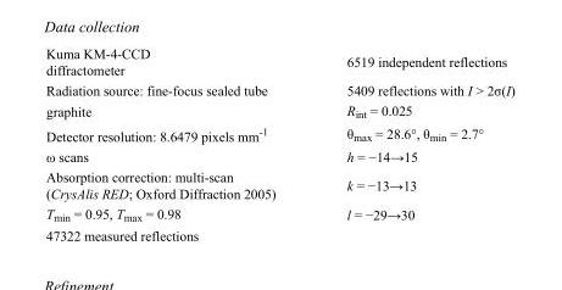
<table><tbody><tr><td>Kuma KM-4-CCD diffractometer</td><td>6519 independent reflections</td></tr><tr><td>Radiation source: fine-focus sealed tube</td><td>5409 reflections with I &gt; 2σ(I)</td></tr><tr><td>graphite</td><td>R<sub>int</sub> = 0.025</td></tr><tr><td>Detector resolution: 8.6479 pixels mm<sup>-1</sup></td><td>θ<sub>max</sub> = 28.6°, θ<sub>min</sub> = 2.7°</td></tr><tr><td>ω scans</td><td>h = −14→15</td></tr><tr><td>Absorption correction: multi-scan (CrysAlis RED; Oxford Diffraction 2005)</td><td>k = −13→13</td></tr><tr><td>T<sub>min</sub> = 0.95, T<sub>max</sub> = 0.98</td><td>l = −29→30</td></tr><tr><td>47322 measured reflections</td><td></td></tr></tbody></table>